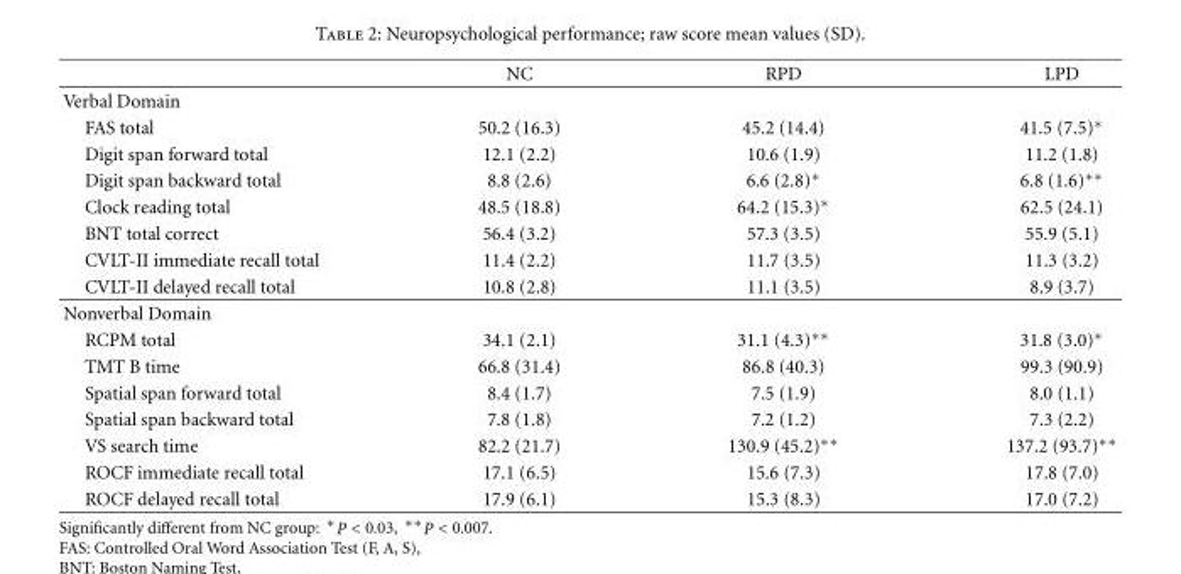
<table><thead><tr><td></td><td>NC</td><td>RPD</td><td>LPD</td></tr></thead><tbody><tr><td colspan="4">Verbal Domain</td></tr><tr><td>FAS total</td><td>50.2 (16.3)</td><td>45.2 (14.4)</td><td>41.5 (7.5)∗</td></tr><tr><td>Digit span forward total</td><td>12.1 (2.2)</td><td>10.6 (1.9)</td><td>11.2 (1.8)</td></tr><tr><td>Digit span backward total</td><td>8.8 (2.6)</td><td>6.6 (2.8)∗</td><td>6.8 (1.6)∗∗</td></tr><tr><td>Clock reading total</td><td>48.5 (18.8)</td><td>64.2 (15.3)∗</td><td>62.5 (24.1)</td></tr><tr><td>BNT total correct</td><td>56.4 (3.2)</td><td>57.3 (3.5)</td><td>55.9 (5.1)</td></tr><tr><td>CVLT-II immediate recall total</td><td>11.4 (2.2)</td><td>11.7 (3.5)</td><td>11.3 (3.2)</td></tr><tr><td>CVLT-II delayed recall total</td><td>10.8 (2.8)</td><td>11.1 (3.5)</td><td>8.9 (3.7)</td></tr><tr><td colspan="4">Nonverbal Domain</td></tr><tr><td>RCPM total</td><td>34.1 (2.1)</td><td>31.1 (4.3)∗∗</td><td>31.8 (3.0)∗</td></tr><tr><td>TMT B time</td><td>66.8 (31.4)</td><td>86.8 (40.3)</td><td>99.3 (90.9)</td></tr><tr><td>Spatial span forward total</td><td>8.4 (1.7)</td><td>7.5 (1.9)</td><td>8.0 (1.1)</td></tr><tr><td>Spatial span backward total</td><td>7.8 (1.8)</td><td>7.2 (1.2)</td><td>7.3 (2.2)</td></tr><tr><td>VS search time</td><td>82.2 (21.7)</td><td>130.9 (45.2)∗∗</td><td>137.2 (93.7)∗∗</td></tr><tr><td>ROCF immediate recall total</td><td>17.1 (6.5)</td><td>15.6 (7.3)</td><td>17.8 (7.0)</td></tr><tr><td>ROCF delayed recall total</td><td>17.9 (6.1)</td><td>15.3 (8.3)</td><td>17.0 (7.2)</td></tr></tbody></table>